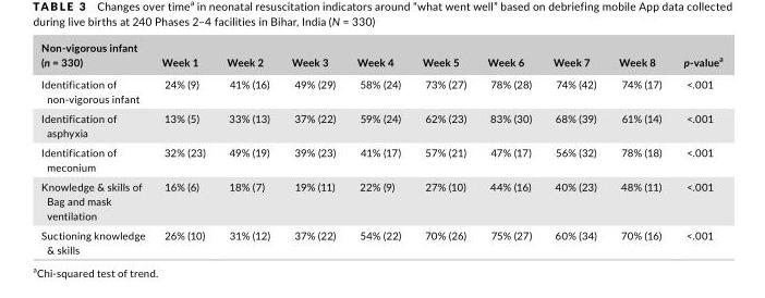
<table><thead><tr><td>Non- vigorous infant (n = 330)</td><td>Week 1</td><td>Week 2</td><td>Week 3</td><td>Week 4</td><td>Week 5</td><td>Week 6</td><td>Week 7</td><td>Week 8</td><td>p- value<sup>a</sup></td></tr></thead><tbody><tr><td>Identification of non- vigorous infant</td><td>24% (9)</td><td>41% (16)</td><td>49% (29)</td><td>58% (24)</td><td>73% (27)</td><td>78% (28)</td><td>74% (42)</td><td>74% (17)</td><td>&lt;.001</td></tr><tr><td>Identification of asphyxia</td><td>13% (5)</td><td>33% (13)</td><td>37% (22)</td><td>59% (24)</td><td>62% (23)</td><td>83% (30)</td><td>68% (39)</td><td>61% (14)</td><td>&lt;.001</td></tr><tr><td>Identification of meconium</td><td>32% (23)</td><td>49% (19)</td><td>39% (23)</td><td>41% (17)</td><td>57% (21)</td><td>47% (17)</td><td>56% (32)</td><td>78% (18)</td><td>&lt;.001</td></tr><tr><td>Knowledge &amp; skills of Bag and mask ventilation</td><td>16% (6)</td><td>18% (7)</td><td>19% (11)</td><td>22% (9)</td><td>27% (10)</td><td>44% (16)</td><td>40% (23)</td><td>48% (11)</td><td>&lt;.001</td></tr><tr><td>Suctioning knowledge &amp; skills</td><td>26% (10)</td><td>31% (12)</td><td>37% (22)</td><td>54% (22)</td><td>70% (26)</td><td>75% (27)</td><td>60% (34)</td><td>70% (16)</td><td>&lt;.001</td></tr></tbody></table>